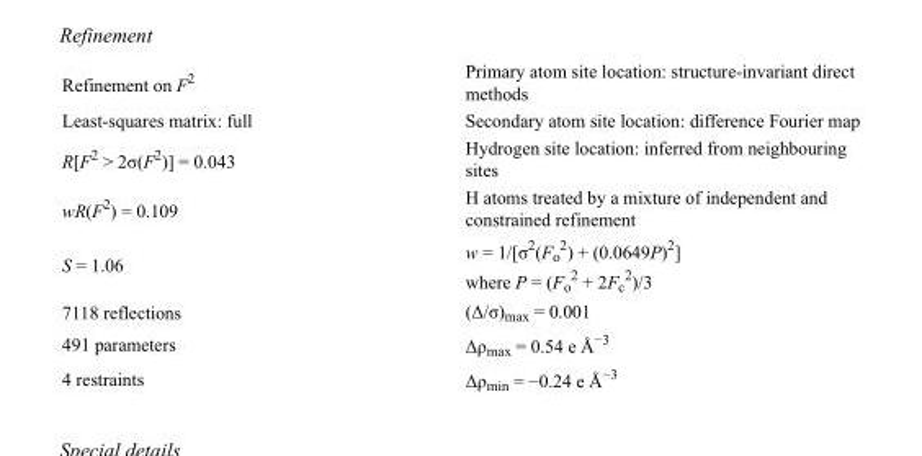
<table><tbody><tr><td>Refinement on F<sup>2</sup></td><td>Primary atom site location: structure-invariant direct methods</td></tr><tr><td>Least-squares matrix: full</td><td>Secondary atom site location: difference Fourier map</td></tr><tr><td>R[F<sup>2</sup> &gt; 2σ(F<sup>2</sup>)] = 0.043</td><td>Hydrogen site location: inferred from neighbouring sites</td></tr><tr><td>wR(F<sup>2</sup>) = 0.109</td><td>H atoms treated by a mixture of independent and constrained refinement</td></tr><tr><td>S = 1.06</td><td>w = 1/[σ<sup>2</sup>(F<sub>o</sub> <sup>2</sup>) + (0.0649P)<sup>2</sup>] where P = (F<sub>o</sub> <sup>2</sup> + 2F<sub>c</sub> <sup>2</sup>)/3</td></tr><tr><td>7118 reflections</td><td>(Δ/σ)<sub>max</sub> = 0.001</td></tr><tr><td>491 parameters</td><td>Δρ<sub>max</sub> = 0.54 e Å<sup>−3</sup></td></tr><tr><td>4 restraints</td><td>Δρ<sub>min</sub> = −0.24 e Å<sup>−3</sup></td></tr></tbody></table>